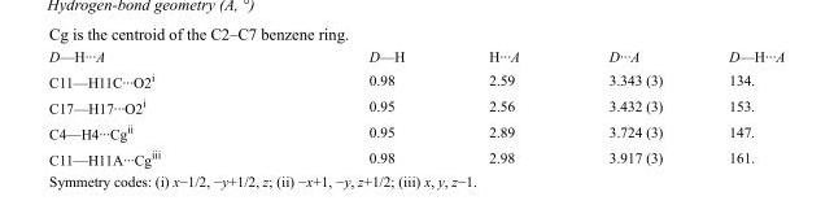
<table><tbody><tr><td>D—H···A</td><td>D—H</td><td>H···A</td><td>D···A</td><td>D—H···A</td></tr><tr><td>C11—H11C···O2<sup>i</sup></td><td>0.98</td><td>2.59</td><td>3.343 (3)</td><td>134.</td></tr><tr><td>C17—H17···O2<sup>i</sup></td><td>0.95</td><td>2.56</td><td>3.432 (3)</td><td>153.</td></tr><tr><td>C4—H4···Cg<sup>ii</sup></td><td>0.95</td><td>2.89</td><td>3.724 (3)</td><td>147.</td></tr><tr><td>C11—H11A···Cg<sup>iii</sup></td><td>0.98</td><td>2.98</td><td>3.917 (3)</td><td>161.</td></tr></tbody></table>